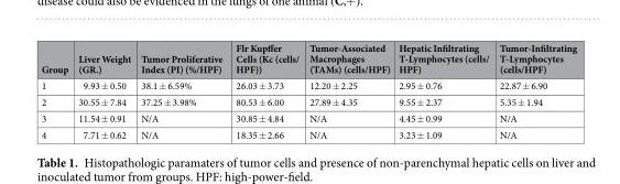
<table><thead><tr><td>Group</td><td>Liver Weight (GR.)</td><td>Tumor Proliferative Index (PI) (%/HPF)</td><td>Flr Kupffer Cells (Kc (cells/ HPF))</td><td>Tumor-Associated Macrophages (TAMs) (cells/HPF)</td><td>Hepatic Infiltrating T-Lymphocytes (cells/ HPF)</td><td>Tumor-Infiltrating T-Lymphocytes (cells/HPF)</td></tr></thead><tbody><tr><td>1</td><td>9.93 ± 0.50</td><td>38.1 ± 6.59%</td><td>26.03 ± 3.73</td><td>12.20 ± 2.25</td><td>2.95 ± 0.76</td><td>22.87 ± 6.90</td></tr><tr><td>2</td><td>30.55 ± 7.84</td><td>37.25 ± 3.98%</td><td>80.53 ± 6.00</td><td>27.89 ± 4.35</td><td>9.55 ± 2.37</td><td>5.35 ± 1.94</td></tr><tr><td>3</td><td>11.54 ± 0.91</td><td>N/A</td><td>30.85 ± 4.84</td><td>N/A</td><td>4.45 ± 0.99</td><td>N/A</td></tr><tr><td>4</td><td>7.71 ± 0.62</td><td>N/A</td><td>18.35 ± 2.66</td><td>N/A</td><td>3.23 ± 1.09</td><td>N/A</td></tr></tbody></table>